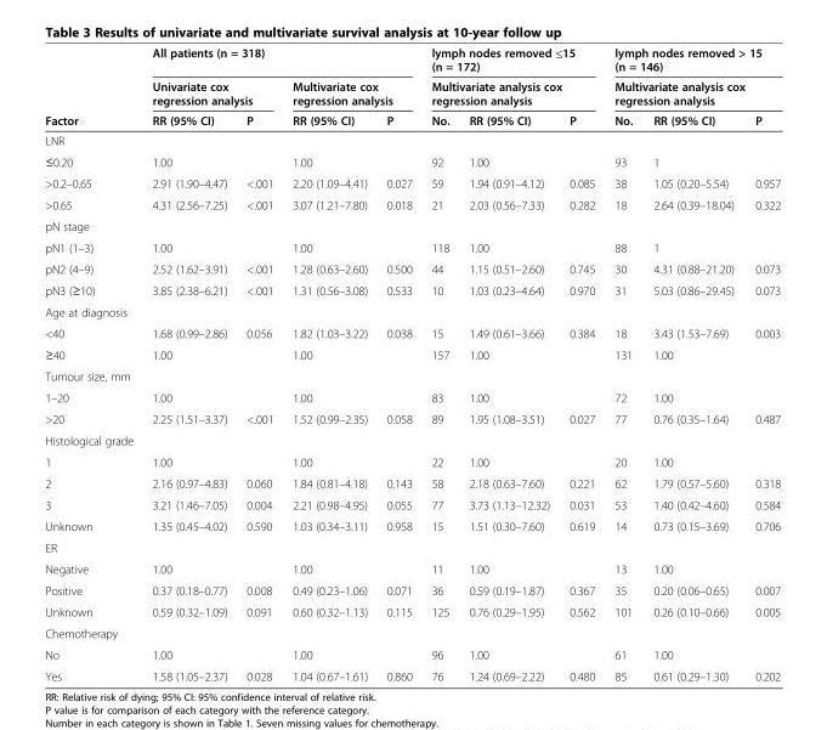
<table><thead><tr><td rowspan="3">Factor</td><td colspan="4">All patients (n = 318)</td><td rowspan="2" colspan="3">lymph nodes removed ≤15 (n = 172) Multivariate analysis cox regression analysis</td><td rowspan="2" colspan="3">lymph nodes removed &gt; 15 (n = 146) Multivariate analysis cox regression analysis</td></tr><tr><td colspan="2">Univariate cox regression analysis</td><td colspan="2">Multivariate cox regression analysis</td></tr><tr><td>RR (95% CI)</td><td>P</td><td>RR (95% CI)</td><td>P</td><td>No.</td><td>RR (95% CI)</td><td>P</td><td>No.</td><td>RR (95% CI)</td><td>P</td></tr></thead><tbody><tr><td colspan="11">LNR</td></tr><tr><td>≤0.20</td><td>1.00</td><td></td><td>1.00</td><td></td><td>92</td><td>1.00</td><td></td><td>93</td><td>1</td><td></td></tr><tr><td>&gt;0.2–0.65</td><td>2.91 (1.90–4.47)</td><td>&lt;.001</td><td>2.20 (1.09–4.41)</td><td>0.027</td><td>59</td><td>1.94 (0.91–4.12)</td><td>0.085</td><td>38</td><td>1.05 (0.20–5.54)</td><td>0.957</td></tr><tr><td>&gt;0.65</td><td>4.31 (2.56–7.25)</td><td>&lt;.001</td><td>3.07 (1.21–7.80)</td><td>0.018</td><td>21</td><td>2.03 (0.56–7.33)</td><td>0.282</td><td>18</td><td>2.64 (0.39–18.04)</td><td>0.322</td></tr><tr><td colspan="11">pN stage</td></tr><tr><td>pN1 (1–3)</td><td>1.00</td><td></td><td>1.00</td><td></td><td>118</td><td>1.00</td><td></td><td>88</td><td>1</td><td></td></tr><tr><td>pN2 (4–9)</td><td>2.52 (1.62–3.91)</td><td>&lt;.001</td><td>1.28 (0.63–2.60)</td><td>0.500</td><td>44</td><td>1.15 (0.51–2.60)</td><td>0.745</td><td>30</td><td>4.31 (0.88–21.20)</td><td>0.073</td></tr><tr><td>pN3 (≥10)</td><td>3.85 (2.38–6.21)</td><td>&lt;.001</td><td>1.31 (0.56–3.08)</td><td>0.533</td><td>10</td><td>1.03 (0.23–4.64)</td><td>0.970</td><td>31</td><td>5.03 (0.86–29.45)</td><td>0.073</td></tr><tr><td colspan="11">Age at diagnosis</td></tr><tr><td>&lt;40</td><td>1.68 (0.99–2.86)</td><td>0.056</td><td>1.82 (1.03–3.22)</td><td>0.038</td><td>15</td><td>1.49 (0.61–3.66)</td><td>0.384</td><td>18</td><td>3.43 (1.53–7.69)</td><td>0.003</td></tr><tr><td>≥40</td><td>1.00</td><td></td><td>1.00</td><td></td><td>157</td><td>1.00</td><td></td><td>131</td><td>1.00</td><td></td></tr><tr><td colspan="11">Tumour size, mm</td></tr><tr><td>1–20</td><td>1.00</td><td></td><td>1.00</td><td></td><td>83</td><td>1.00</td><td></td><td>72</td><td>1.00</td><td></td></tr><tr><td>&gt;20</td><td>2.25 (1.51–3.37)</td><td>&lt;.001</td><td>1.52 (0.99–2.35)</td><td>0.058</td><td>89</td><td>1.95 (1.08–3.51)</td><td>0.027</td><td>77</td><td>0.76 (0.35–1.64)</td><td>0.487</td></tr><tr><td colspan="11">Histological grade</td></tr><tr><td>1</td><td>1.00</td><td></td><td>1.00</td><td></td><td>22</td><td>1.00</td><td></td><td>20</td><td>1.00</td><td></td></tr><tr><td>2</td><td>2.16 (0.97–4.83)</td><td>0.060</td><td>1.84 (0.81–4.18)</td><td>0.143</td><td>58</td><td>2.18 (0.63–7.60)</td><td>0.221</td><td>62</td><td>1.79 (0.57–5.60)</td><td>0.318</td></tr><tr><td>3</td><td>3.21 (1.46–7.05)</td><td>0.004</td><td>2.21 (0.98–4.95)</td><td>0.055</td><td>77</td><td>3.73 (1.13–12.32)</td><td>0.031</td><td>53</td><td>1.40 (0.42–4.60)</td><td>0.584</td></tr><tr><td>Unknown</td><td>1.35 (0.45–4.02)</td><td>0.590</td><td>1.03 (0.34–3.11)</td><td>0.958</td><td>15</td><td>1.51 (0.30–7.60)</td><td>0.619</td><td>14</td><td>0.73 (0.15–3.69)</td><td>0.706</td></tr><tr><td colspan="11">ER</td></tr><tr><td>Negative</td><td>1.00</td><td></td><td>1.00</td><td></td><td>11</td><td>1.00</td><td></td><td>13</td><td>1.00</td><td></td></tr><tr><td>Positive</td><td>0.37 (0.18–0.77)</td><td>0.008</td><td>0.49 (0.23–1.06)</td><td>0.071</td><td>36</td><td>0.59 (0.19–1.87)</td><td>0.367</td><td>35</td><td>0.20 (0.06–0.65)</td><td>0.007</td></tr><tr><td>Unknown</td><td>0.59 (0.32–1.09)</td><td>0.091</td><td>0.60 (0.32–1.13)</td><td>0.115</td><td>125</td><td>0.76 (0.29–1.95)</td><td>0.562</td><td>101</td><td>0.26 (0.10–0.66)</td><td>0.005</td></tr><tr><td colspan="11">Chemotherapy</td></tr><tr><td>No</td><td>1.00</td><td></td><td>1.00</td><td></td><td>96</td><td>1.00</td><td></td><td>61</td><td>1.00</td><td></td></tr><tr><td>Yes</td><td>1.58 (1.05–2.37)</td><td>0.028</td><td>1.04 (0.67–1.61)</td><td>0.860</td><td>76</td><td>1.24 (0.69–2.22)</td><td>0.480</td><td>85</td><td>0.61 (0.29–1.30)</td><td>0.202</td></tr></tbody></table>